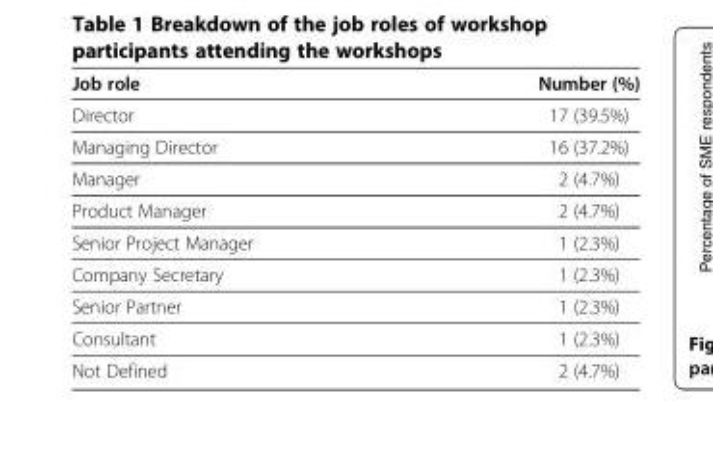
<table><thead><tr><td>Job role</td><td>Number (%)</td></tr></thead><tbody><tr><td>Director</td><td>17 (39.5%)</td></tr><tr><td>Managing Director</td><td>16 (37.2%)</td></tr><tr><td>Manager</td><td>2 (4.7%)</td></tr><tr><td>Product Manager</td><td>2 (4.7%)</td></tr><tr><td>Senior Project Manager</td><td>1 (2.3%)</td></tr><tr><td>Company Secretary</td><td>1 (2.3%)</td></tr><tr><td>Senior Partner</td><td>1 (2.3%)</td></tr><tr><td>Consultant</td><td>1 (2.3%)</td></tr><tr><td>Not Defined</td><td>2 (4.7%)</td></tr></tbody></table>